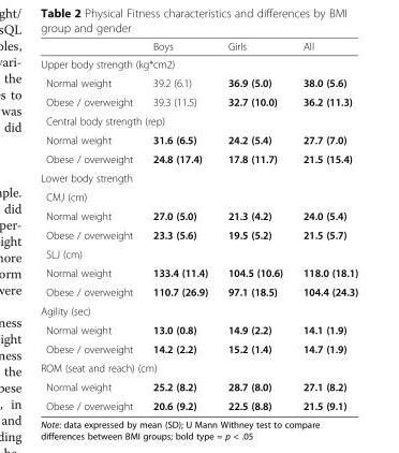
<table><thead><tr><td></td><td>Boys</td><td>Girls</td><td>All</td></tr></thead><tbody><tr><td colspan="4">Upper body strength (kg*cm2)</td></tr><tr><td>Normal weight</td><td>39.2 (6.1)</td><td>36.9 (5.0)</td><td>38.0 (5.6)</td></tr><tr><td>Obese / overweight</td><td>39.3 (11.5)</td><td>32.7 (10.0)</td><td>36.2 (11.3)</td></tr><tr><td colspan="4">Central body strength (rep)</td></tr><tr><td>Normal weight</td><td>31.6 (6.5)</td><td>24.2 (5.4)</td><td>27.7 (7.0)</td></tr><tr><td>Obese / overweight</td><td>24.8 (17.4)</td><td>17.8 (11.7)</td><td>21.5 (15.4)</td></tr><tr><td colspan="4">Lower body strength</td></tr><tr><td colspan="4">CMJ (cm)</td></tr><tr><td>Normal weight</td><td>27.0 (5.0)</td><td>21.3 (4.2)</td><td>24.0 (5.4)</td></tr><tr><td>Obese / overweight</td><td>23.3 (5.6)</td><td>19.5 (5.2)</td><td>21.5 (5.7)</td></tr><tr><td colspan="4">SLJ (cm)</td></tr><tr><td>Normal weight</td><td>133.4 (11.4)</td><td>104.5 (10.6)</td><td>118.0 (18.1)</td></tr><tr><td>Obese / overweight</td><td>110.7 (26.9)</td><td>97.1 (18.5)</td><td>104.4 (24.3)</td></tr><tr><td colspan="4">Agility (sec)</td></tr><tr><td>Normal weight</td><td>13.0 (0.8)</td><td>14.9 (2.2)</td><td>14.1 (1.9)</td></tr><tr><td>Obese / overweight</td><td>14.2 (2.2)</td><td>15.2 (1.4)</td><td>14.7 (1.9)</td></tr><tr><td colspan="4">ROM (seat and reach) (cm)</td></tr><tr><td>Normal weight</td><td>25.2 (8.2)</td><td>28.7 (8.0)</td><td>27.1 (8.2)</td></tr><tr><td>Obese / overweight</td><td>20.6 (9.2)</td><td>22.5 (8.8)</td><td>21.5 (9.1)</td></tr></tbody></table>